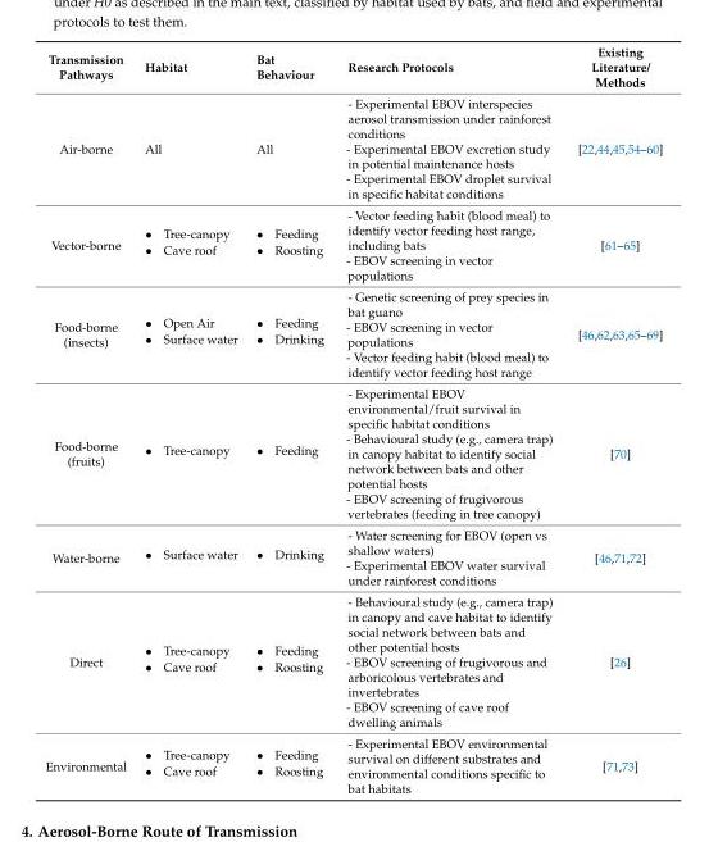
<table><thead><tr><td>Transmission Pathways</td><td>Habitat</td><td>Bat Behaviour</td><td>Research Protocols</td><td>Existing Literature/ Methods</td></tr></thead><tbody><tr><td>Air-borne</td><td>All</td><td>All</td><td>- Experimental EBOV interspecies aerosol transmission under rainforest conditions - Experimental EBOV excretion study in potential maintenance hosts - Experimental EBOV droplet survival in specific habitat conditions</td><td>[22,44,45,54–60]</td></tr><tr><td>Vector-borne</td><td>• Tree-canopy • Cave roof</td><td>• Feeding • Roosting</td><td>- Vector feeding habit (blood meal) to identify vector feeding host range, including bats - EBOV screening in vector populations</td><td>[61–65]</td></tr><tr><td>Food-borne (insects)</td><td>• Open Air • Surface water</td><td>• Feeding • Drinking</td><td>- Genetic screening of prey species in bat guano - EBOV screening in vector populations - Vector feeding habit (blood meal) to identify vector feeding host range</td><td>[46,62,63,65–69]</td></tr><tr><td>Food-borne (fruits)</td><td>• Tree-canopy</td><td>• Feeding</td><td>- Experimental EBOV environmental/fruit survival in specific habitat conditions - Behavioural study (e.g., camera trap) in canopy habitat to identify social network between bats and other potential hosts - EBOV screening of frugivorous vertebrates (feeding in tree canopy)</td><td>[70]</td></tr><tr><td>Water-borne</td><td>• Surface water</td><td>• Drinking</td><td>- Water screening for EBOV (open vs shallow waters) - Experimental EBOV water survival under rainforest conditions</td><td>[46,71,72]</td></tr><tr><td>Direct</td><td>• Tree-canopy • Cave roof</td><td>• Feeding • Roosting</td><td>- Behavioural study (e.g., camera trap) in canopy and cave habitat to identify social network between bats and other potential hosts - EBOV screening of frugivorous and arboricolous vertebrates and invertebrates - EBOV screening of cave roof dwelling animals</td><td>[26]</td></tr><tr><td>Environmental</td><td>• Tree-canopy • Cave roof</td><td>• Feeding • Roosting</td><td>- Experimental EBOV environmental survival on different substrates and environmental conditions specific to bat habitats</td><td>[71,73]</td></tr></tbody></table>